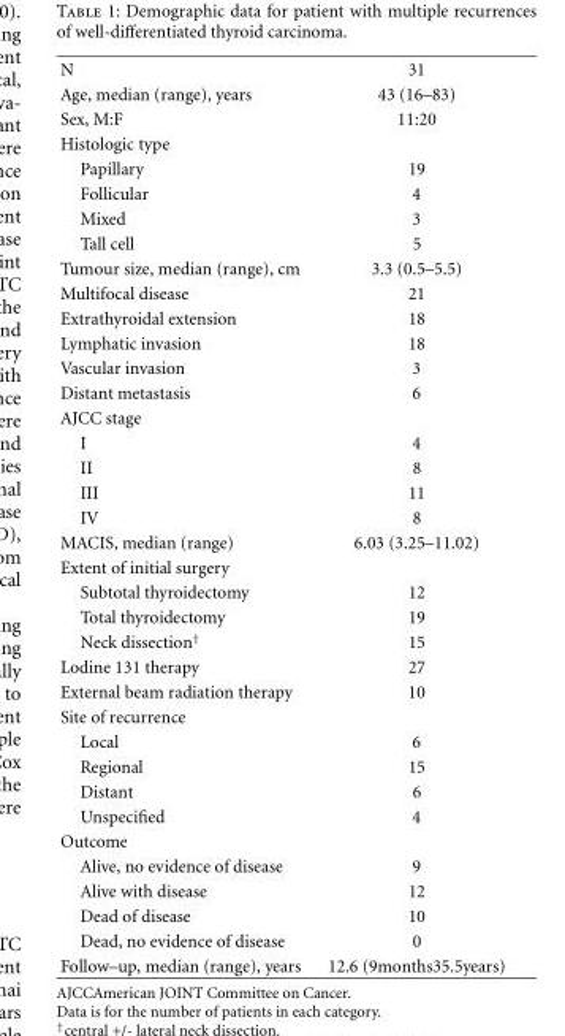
<table><tbody><tr><td>N</td><td>31</td></tr><tr><td>Age, median (range), years</td><td>43 (16–83)</td></tr><tr><td>Sex, M:F</td><td>11:20</td></tr><tr><td colspan="2">Histologic type</td></tr><tr><td>Papillary</td><td>19</td></tr><tr><td>Follicular</td><td>4</td></tr><tr><td>Mixed</td><td>3</td></tr><tr><td>Tall cell</td><td>5</td></tr><tr><td>Tumour size, median (range), cm</td><td>3.3 (0.5–5.5)</td></tr><tr><td>Multifocal disease</td><td>21</td></tr><tr><td>Extrathyroidal extension</td><td>18</td></tr><tr><td>Lymphatic invasion</td><td>18</td></tr><tr><td>Vascular invasion</td><td>3</td></tr><tr><td>Distant metastasis</td><td>6</td></tr><tr><td colspan="2">AJCC stage</td></tr><tr><td>I</td><td>4</td></tr><tr><td>II</td><td>8</td></tr><tr><td>III</td><td>11</td></tr><tr><td>IV</td><td>8</td></tr><tr><td>MACIS, median (range)</td><td>6.03 (3.25–11.02)</td></tr><tr><td colspan="2">Extent of initial surgery</td></tr><tr><td>Subtotal thyroidectomy</td><td>12</td></tr><tr><td>Total thyroidectomy</td><td>19</td></tr><tr><td>Neck dissection<sup>†</sup></td><td>15</td></tr><tr><td>Lodine 131 therapy</td><td>27</td></tr><tr><td>External beam radiation therapy</td><td>10</td></tr><tr><td colspan="2">Site of recurrence</td></tr><tr><td>Local</td><td>6</td></tr><tr><td>Regional</td><td>15</td></tr><tr><td>Distant</td><td>6</td></tr><tr><td>Unspecified</td><td>4</td></tr><tr><td colspan="2">Outcome</td></tr><tr><td>Alive, no evidence of disease</td><td>9</td></tr><tr><td>Alive with disease</td><td>12</td></tr><tr><td>Dead of disease</td><td>10</td></tr><tr><td>Dead, no evidence of disease</td><td>0</td></tr><tr><td>Follow–up, median (range), years</td><td>12.6 (9months35.5years)</td></tr></tbody></table>